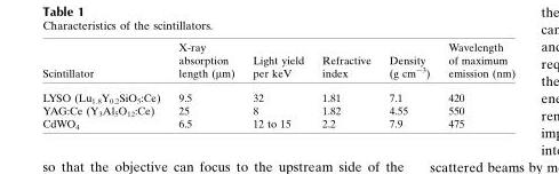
<table><thead><tr><td>Scintillator</td><td>X-ray absorption length (µm)</td><td>Light yield per keV</td><td>Refractive index</td><td>Density (g cm<sup>−3</sup>)</td><td>Wavelength of maximum emission (nm)</td></tr></thead><tbody><tr><td>LYSO (Lu<sub>1.8</sub>Y<sub>0.2</sub>SiO<sub>5</sub>:Ce)</td><td>9.5</td><td>32</td><td>1.81</td><td>7.1</td><td>420</td></tr><tr><td>YAG:Ce (Y<sub>3</sub>Al<sub>5</sub>O<sub>12</sub>:Ce)</td><td>25</td><td>8</td><td>1.82</td><td>4.55</td><td>550</td></tr><tr><td>CdWO<sub>4</sub></td><td>6.5</td><td>12 to 15</td><td>2.2</td><td>7.9</td><td>475</td></tr></tbody></table>